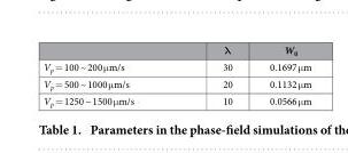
<table><thead><tr><td></td><td>λ</td><td>W<sub>0</sub></td></tr></thead><tbody><tr><td>V<sub>p</sub> = 100 ~ 200 μ m/s</td><td>30</td><td>0.1697 μ</td></tr><tr><td>V<sub>p</sub> = 500 ~ 1000 μ m/s</td><td>20</td><td>0.1132 μ</td></tr><tr><td>V<sub>p</sub> = 1250 ~ 1500 μ m/s</td><td>10</td><td>0.0566 μ</td></tr></tbody></table>